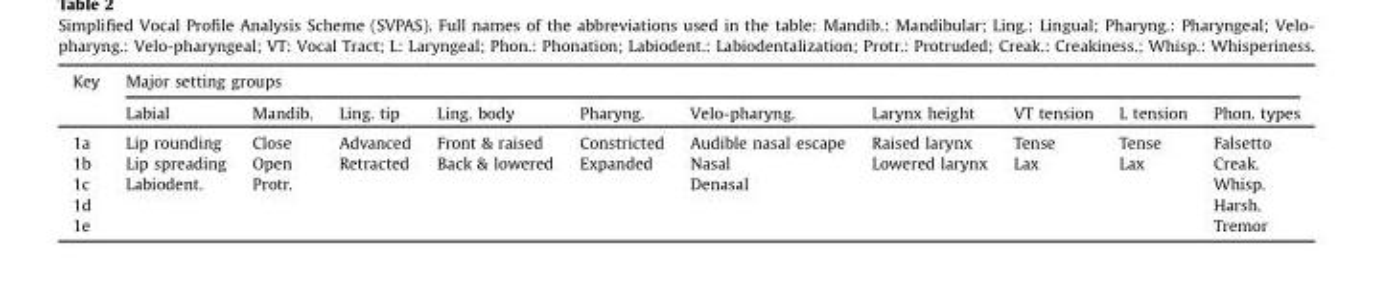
<table><thead><tr><td rowspan="2">Key</td><td colspan="10">Major setting groups</td></tr><tr><td>Labial</td><td>Mandib.</td><td>Ling. tip</td><td>Ling. body</td><td>Pharyng.</td><td>Velo-pharyng.</td><td>Larynx height</td><td>VT tension</td><td>L tension</td><td>Phon. types</td></tr></thead><tbody><tr><td>1a</td><td>Lip rounding</td><td>Close</td><td>Advanced</td><td>Front &amp; raised</td><td>Constricted</td><td>Audible nasal escape</td><td>Raised larynx</td><td>Tense</td><td>Tense</td><td>Falsetto</td></tr><tr><td>1b</td><td>Lip spreading</td><td>Open</td><td>Retracted</td><td>Back &amp; lowered</td><td>Expanded</td><td>Nasal</td><td>Lowered larynx</td><td>Lax</td><td>Lax</td><td>Creak.</td></tr><tr><td>1c</td><td>Labiodent.</td><td>Protr.</td><td></td><td></td><td></td><td>Denasal</td><td></td><td></td><td></td><td>Whisp.</td></tr><tr><td>1d</td><td></td><td></td><td></td><td></td><td></td><td></td><td></td><td></td><td></td><td>Harsh.</td></tr><tr><td>1e</td><td></td><td></td><td></td><td></td><td></td><td></td><td></td><td></td><td></td><td>Tremor</td></tr></tbody></table>